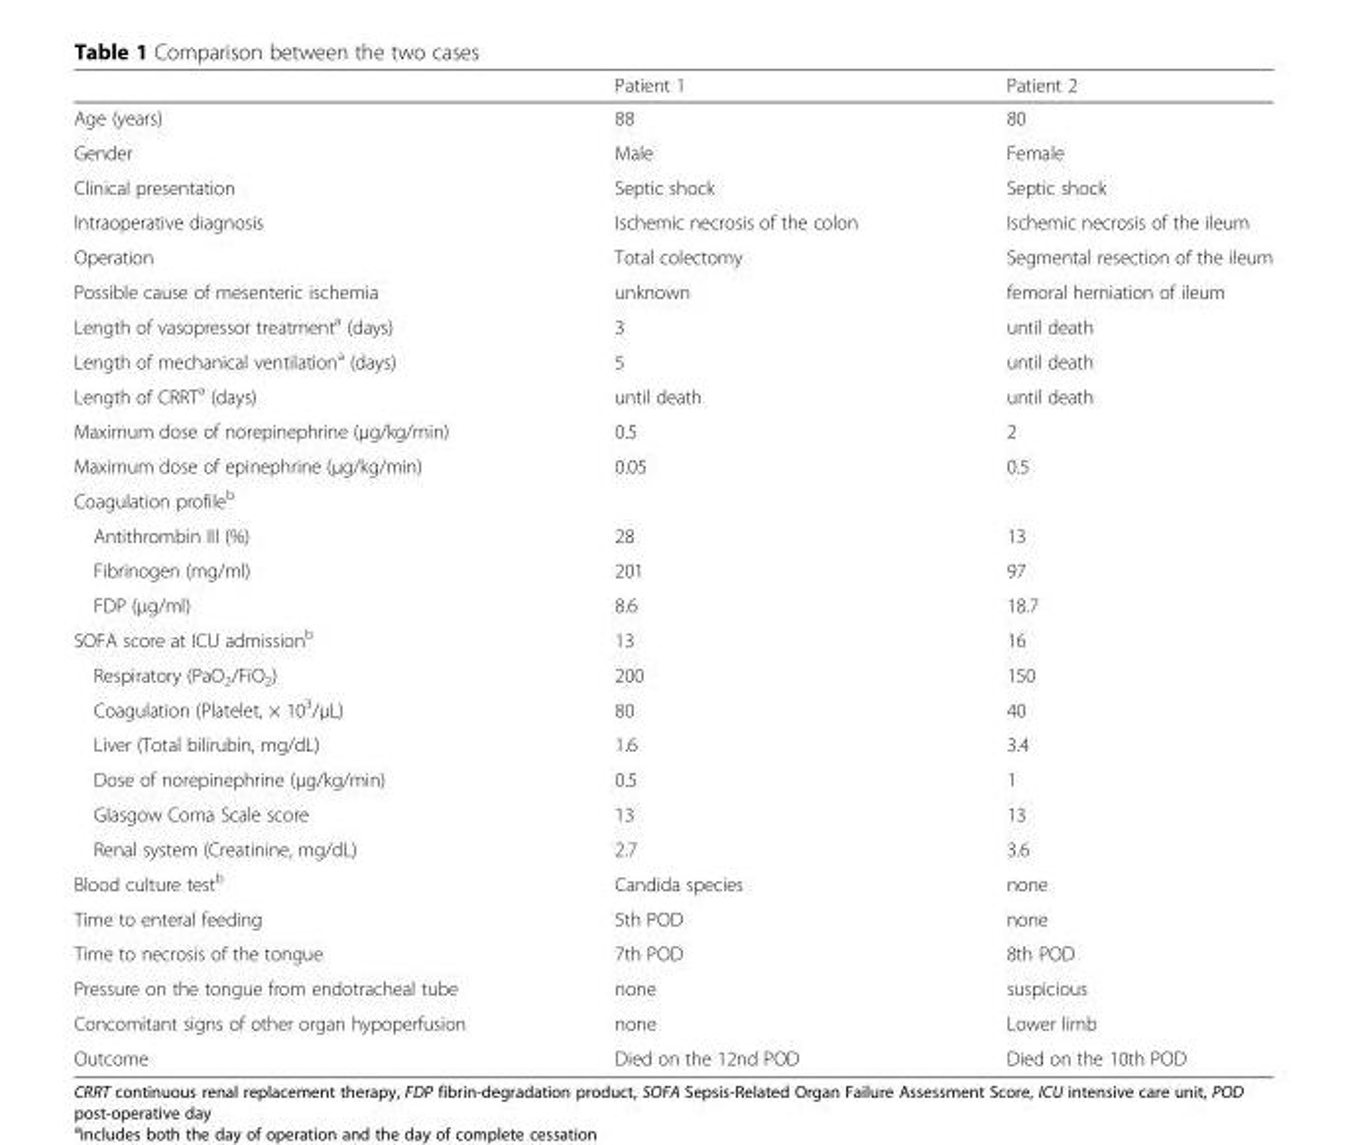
<table><thead><tr><td></td><td>Patient 1</td><td>Patient 2</td></tr></thead><tbody><tr><td>Age (years)</td><td>88</td><td>80</td></tr><tr><td>Gender</td><td>Male</td><td>Female</td></tr><tr><td>Clinical presentation</td><td>Septic shock</td><td>Septic shock</td></tr><tr><td>Intraoperative diagnosis</td><td>Ischemic necrosis of the colon</td><td>Ischemic necrosis of the ileum</td></tr><tr><td>Operation</td><td>Total colectomy</td><td>Segmental resection of the ileum</td></tr><tr><td>Possible cause of mesenteric ischemia</td><td>unknown</td><td>femoral herniation of ileum</td></tr><tr><td>Length of vasopressor treatment<sup>a</sup> (days)</td><td>3</td><td>until death</td></tr><tr><td>Length of mechanical ventilation<sup>a</sup> (days)</td><td>5</td><td>until death</td></tr><tr><td>Length of CRRT<sup>a</sup> (days)</td><td>until death</td><td>until death</td></tr><tr><td>Maximum dose of norepinephrine (μg/kg/min)</td><td>0.5</td><td>2</td></tr><tr><td>Maximum dose of epinephrine (μg/kg/min)</td><td>0.05</td><td>0.5</td></tr><tr><td colspan="3">Coagulation profile<sup>b</sup></td></tr><tr><td>Antithrombin III (%)</td><td>28</td><td>13</td></tr><tr><td>Fibrinogen (mg/ml)</td><td>201</td><td>97</td></tr><tr><td>FDP (μg/ml)</td><td>8.6</td><td>18.7</td></tr><tr><td>SOFA score at ICU admission<sup>b</sup></td><td>13</td><td>16</td></tr><tr><td>Respiratory (PaO<sub>2</sub>/FiO<sub>2</sub>)</td><td>200</td><td>150</td></tr><tr><td>Coagulation (Platelet, × 10<sup>3</sup>/μL)</td><td>80</td><td>40</td></tr><tr><td>Liver (Total bilirubin, mg/dL)</td><td>1.6</td><td>3.4</td></tr><tr><td>Dose of norepinephrine (μg/kg/min)</td><td>0.5</td><td>1</td></tr><tr><td>Glasgow Coma Scale score</td><td>13</td><td>13</td></tr><tr><td>Renal system (Creatinine, mg/dL)</td><td>2.7</td><td>3.6</td></tr><tr><td>Blood culture test<sup>b</sup></td><td>Candida species</td><td>none</td></tr><tr><td>Time to enteral feeding</td><td>5th POD</td><td>none</td></tr><tr><td>Time to necrosis of the tongue</td><td>7th POD</td><td>8th POD</td></tr><tr><td>Pressure on the tongue from endotracheal tube</td><td>none</td><td>suspicious</td></tr><tr><td>Concomitant signs of other organ hypoperfusion</td><td>none</td><td>Lower limb</td></tr><tr><td>Outcome</td><td>Died on the 12nd POD</td><td>Died on the 10th POD</td></tr></tbody></table>